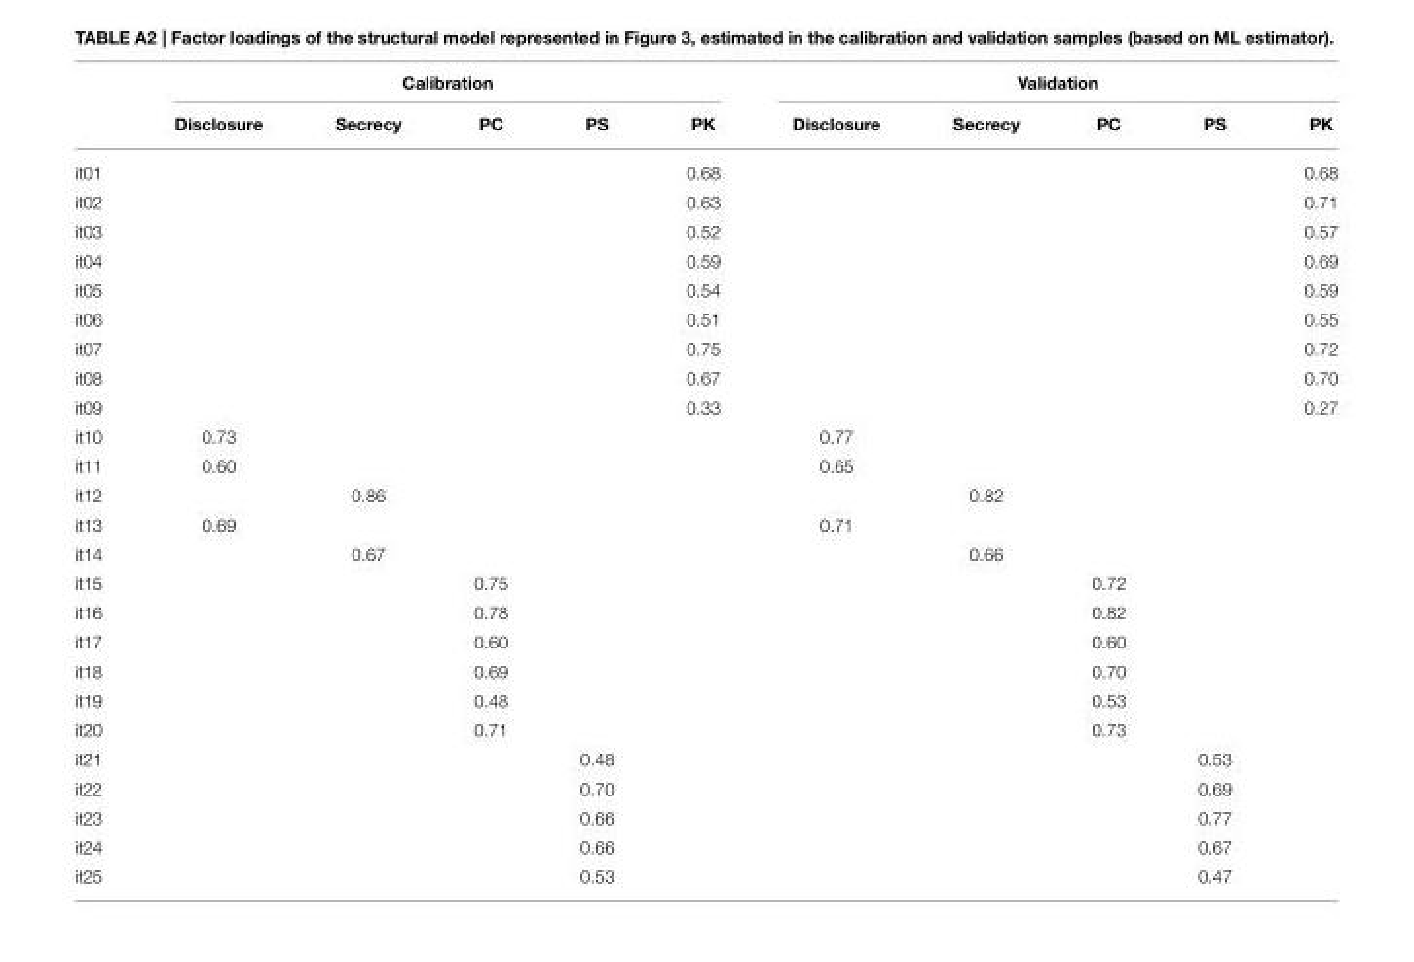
<table><thead><tr><td rowspan="2"></td><td colspan="5">Calibration</td><td colspan="5">Validation</td></tr><tr><td>Disclosure</td><td>Secrecy</td><td>PC</td><td>PS</td><td>PK</td><td>Disclosure</td><td>Secrecy</td><td>PC</td><td>PS</td><td>PK</td></tr></thead><tbody><tr><td>it01</td><td></td><td></td><td></td><td></td><td>0.68</td><td></td><td></td><td></td><td></td><td>0.68</td></tr><tr><td>it02</td><td></td><td></td><td></td><td></td><td>0.63</td><td></td><td></td><td></td><td></td><td>0.71</td></tr><tr><td>it03</td><td></td><td></td><td></td><td></td><td>0.52</td><td></td><td></td><td></td><td></td><td>0.57</td></tr><tr><td>it04</td><td></td><td></td><td></td><td></td><td>0.59</td><td></td><td></td><td></td><td></td><td>0.69</td></tr><tr><td>it05</td><td></td><td></td><td></td><td></td><td>0.54</td><td></td><td></td><td></td><td></td><td>0.59</td></tr><tr><td>it06</td><td></td><td></td><td></td><td></td><td>0.51</td><td></td><td></td><td></td><td></td><td>0.55</td></tr><tr><td>it07</td><td></td><td></td><td></td><td></td><td>0.75</td><td></td><td></td><td></td><td></td><td>0.72</td></tr><tr><td>it08</td><td></td><td></td><td></td><td></td><td>0.67</td><td></td><td></td><td></td><td></td><td>0.70</td></tr><tr><td>it09</td><td></td><td></td><td></td><td></td><td>0.33</td><td></td><td></td><td></td><td></td><td>0.27</td></tr><tr><td>it10</td><td>0.73</td><td></td><td></td><td></td><td></td><td>0.77</td><td></td><td></td><td></td><td></td></tr><tr><td>it11</td><td>0.60</td><td></td><td></td><td></td><td></td><td>0.65</td><td></td><td></td><td></td><td></td></tr><tr><td>it12</td><td></td><td>0.86</td><td></td><td></td><td></td><td></td><td>0.82</td><td></td><td></td><td></td></tr><tr><td>it13</td><td>0.69</td><td></td><td></td><td></td><td></td><td>0.71</td><td></td><td></td><td></td><td></td></tr><tr><td>it14</td><td></td><td>0.67</td><td></td><td></td><td></td><td></td><td>0.66</td><td></td><td></td><td></td></tr><tr><td>it15</td><td></td><td></td><td>0.75</td><td></td><td></td><td></td><td></td><td>0.72</td><td></td><td></td></tr><tr><td>it16</td><td></td><td></td><td>0.78</td><td></td><td></td><td></td><td></td><td>0.82</td><td></td><td></td></tr><tr><td>it17</td><td></td><td></td><td>0.60</td><td></td><td></td><td></td><td></td><td>0.60</td><td></td><td></td></tr><tr><td>it18</td><td></td><td></td><td>0.69</td><td></td><td></td><td></td><td></td><td>0.70</td><td></td><td></td></tr><tr><td>it19</td><td></td><td></td><td>0.48</td><td></td><td></td><td></td><td></td><td>0.53</td><td></td><td></td></tr><tr><td>it20</td><td></td><td></td><td>0.71</td><td></td><td></td><td></td><td></td><td>0.73</td><td></td><td></td></tr><tr><td>it21</td><td></td><td></td><td></td><td>0.48</td><td></td><td></td><td></td><td></td><td>0.53</td><td></td></tr><tr><td>it22</td><td></td><td></td><td></td><td>0.70</td><td></td><td></td><td></td><td></td><td>0.69</td><td></td></tr><tr><td>it23</td><td></td><td></td><td></td><td>0.66</td><td></td><td></td><td></td><td></td><td>0.77</td><td></td></tr><tr><td>it24</td><td></td><td></td><td></td><td>0.66</td><td></td><td></td><td></td><td></td><td>0.67</td><td></td></tr><tr><td>it25</td><td></td><td></td><td></td><td>0.53</td><td></td><td></td><td></td><td></td><td>0.47</td><td></td></tr></tbody></table>